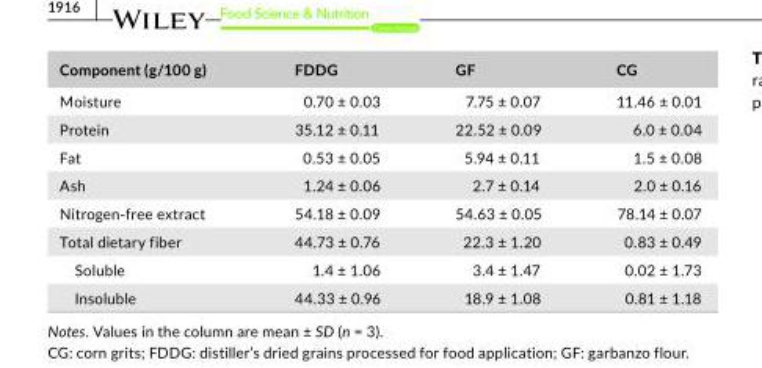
<table><thead><tr><td>Component (g/100 g)</td><td>FDDG</td><td>GF</td><td>CG</td></tr></thead><tbody><tr><td>Moisture</td><td>0.70 ± 0.03</td><td>7.75 ± 0.07</td><td>11.46 ± 0.01</td></tr><tr><td>Protein</td><td>35.12 ± 0.11</td><td>22.52 ± 0.09</td><td>6.0 ± 0.04</td></tr><tr><td>Fat</td><td>0.53 ± 0.05</td><td>5.94 ± 0.11</td><td>1.5 ± 0.08</td></tr><tr><td>Ash</td><td>1.24 ± 0.06</td><td>2.7 ± 0.14</td><td>2.0 ± 0.16</td></tr><tr><td>Nitrogen- free extract</td><td>54.18 ± 0.09</td><td>54.63 ± 0.05</td><td>78.14 ± 0.07</td></tr><tr><td>Total dietary fiber</td><td>44.73 ± 0.76</td><td>22.3 ± 1.20</td><td>0.83 ± 0.49</td></tr><tr><td>Soluble</td><td>1.4 ± 1.06</td><td>3.4 ± 1.47</td><td>0.02 ± 1.73</td></tr><tr><td>Insoluble</td><td>44.33 ± 0.96</td><td>18.9 ± 1.08</td><td>0.81 ± 1.18</td></tr></tbody></table>